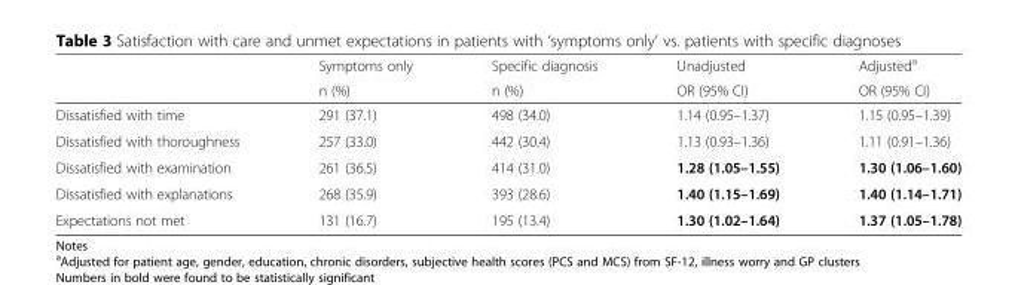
<table><thead><tr><td rowspan="2"></td><td rowspan="2">Symptoms only n (%)</td><td rowspan="2">Specific diagnosis n (%)</td><td rowspan="2">Unadjusted OR (95% CI)</td><td rowspan="2">Adjusted<sup>a</sup> OR (95% CI)</td></tr><tr></tr></thead><tbody><tr><td>Dissatisfied with time</td><td>291 (37.1)</td><td>498 (34.0)</td><td>1.14 (0.95–1.37)</td><td>1.15 (0.95–1.39)</td></tr><tr><td>Dissatisfied with thoroughness</td><td>257 (33.0)</td><td>442 (30.4)</td><td>1.13 (0.93–1.36)</td><td>1.11 (0.91–1.36)</td></tr><tr><td>Dissatisfied with examination</td><td>261 (36.5)</td><td>414 (31.0)</td><td>1.28 (1.05–1.55)</td><td>1.30 (1.06–1.60)</td></tr><tr><td>Dissatisfied with explanations</td><td>268 (35.9)</td><td>393 (28.6)</td><td>1.40 (1.15–1.69)</td><td>1.40 (1.14–1.71)</td></tr><tr><td>Expectations not met</td><td>131 (16.7)</td><td>195 (13.4)</td><td>1.30 (1.02–1.64)</td><td>1.37 (1.05–1.78)</td></tr></tbody></table>